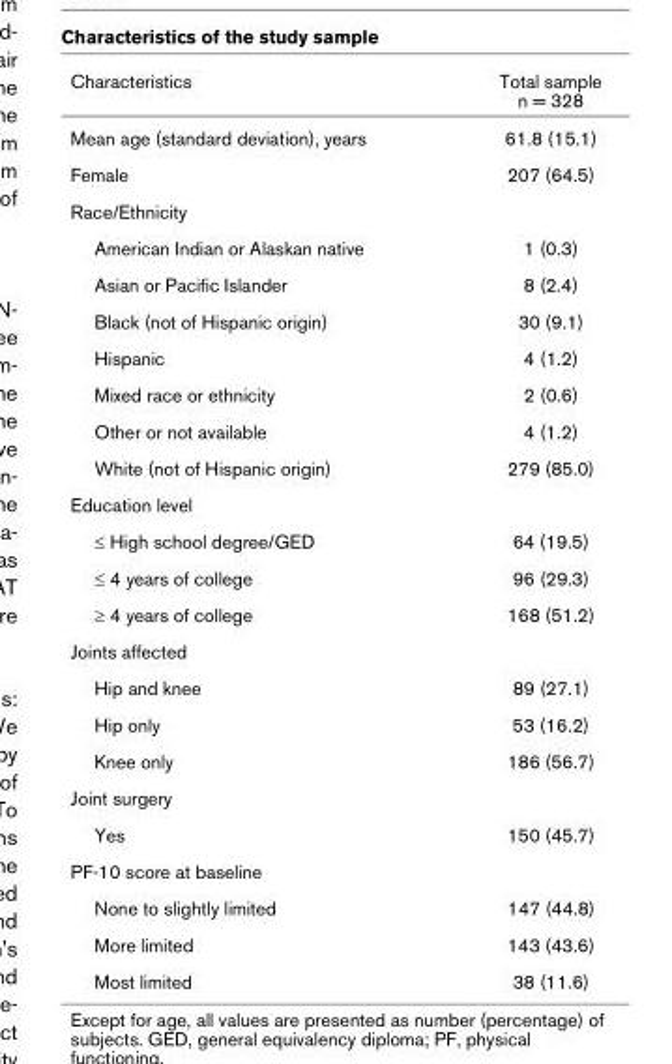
<table><thead><tr><td>Characteristics</td><td>Total sample n = 328</td></tr></thead><tbody><tr><td>Mean age (standard deviation), years</td><td>61.8 (15.1)</td></tr><tr><td>Female</td><td>207 (64.5)</td></tr><tr><td colspan="2">Race/Ethnicity</td></tr><tr><td>American Indian or Alaskan native</td><td>1 (0.3)</td></tr><tr><td>Asian or Pacific Islander</td><td>8 (2.4)</td></tr><tr><td>Black (not of Hispanic origin)</td><td>30 (9.1)</td></tr><tr><td>Hispanic</td><td>4 (1.2)</td></tr><tr><td>Mixed race or ethnicity</td><td>2 (0.6)</td></tr><tr><td>Other or not available</td><td>4 (1.2)</td></tr><tr><td>White (not of Hispanic origin)</td><td>279 (85.0)</td></tr><tr><td colspan="2">Education level</td></tr><tr><td>≤ High school degree/GED</td><td>64 (19.5)</td></tr><tr><td>≤ 4 years of college</td><td>96 (29.3)</td></tr><tr><td>≥ 4 years of college</td><td>168 (51.2)</td></tr><tr><td colspan="2">Joints affected</td></tr><tr><td>Hip and knee</td><td>89 (27.1)</td></tr><tr><td>Hip only</td><td>53 (16.2)</td></tr><tr><td>Knee only</td><td>186 (56.7)</td></tr><tr><td colspan="2">Joint surgery</td></tr><tr><td>Yes</td><td>150 (45.7)</td></tr><tr><td colspan="2">PF-10 score at baseline</td></tr><tr><td>None to slightly limited</td><td>147 (44.8)</td></tr><tr><td>More limited</td><td>143 (43.6)</td></tr><tr><td>Most limited</td><td>38 (11.6)</td></tr></tbody></table>